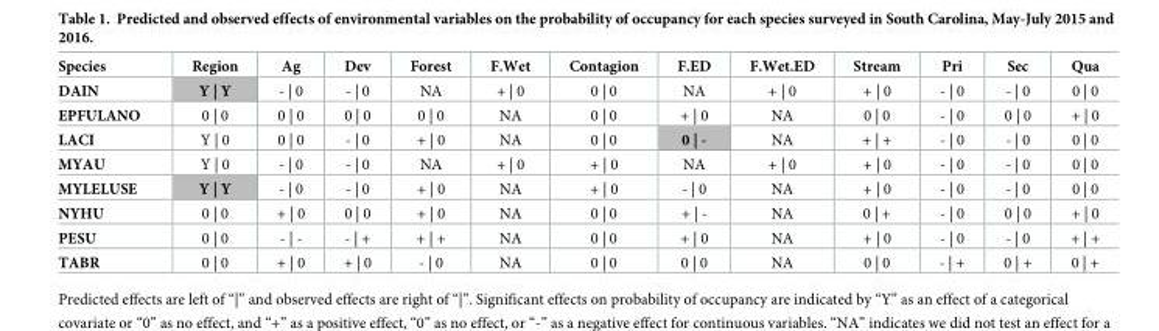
<table><thead><tr><td>Species</td><td>Region</td><td>Ag</td><td>Dev</td><td>Forest</td><td>F.Wet</td><td>Contagion</td><td>F.ED</td><td>F.Wet.ED</td><td>Stream</td><td>Pri</td><td>Sec</td><td>Qua</td></tr></thead><tbody><tr><td>DAIN</td><td>Y | Y</td><td>- | 0</td><td>- | 0</td><td>NA</td><td>+ | 0</td><td>0 | 0</td><td>NA</td><td>+ | 0</td><td>+ | 0</td><td>- | 0</td><td>- | 0</td><td>0 | 0</td></tr><tr><td>EPFULANO</td><td>0 | 0</td><td>0 | 0</td><td>0 | 0</td><td>0 | 0</td><td>NA</td><td>0 | 0</td><td>+ | 0</td><td>NA</td><td>0 | 0</td><td>- | 0</td><td>0 | 0</td><td>+ | 0</td></tr><tr><td>LACI</td><td>Y | 0</td><td>0 | 0</td><td>- | 0</td><td>+ | 0</td><td>NA</td><td>0 | 0</td><td>0 | -</td><td>NA</td><td>+ | +</td><td>- | 0</td><td>- | 0</td><td>0 | 0</td></tr><tr><td>MYAU</td><td>Y | 0</td><td>- | 0</td><td>- | 0</td><td>NA</td><td>+ | 0</td><td>+ | 0</td><td>NA</td><td>+ | 0</td><td>+ | 0</td><td>- | 0</td><td>- | 0</td><td>0 | 0</td></tr><tr><td>MYLELUSE</td><td>Y | Y</td><td>- | 0</td><td>- | 0</td><td>+ | 0</td><td>NA</td><td>+ | 0</td><td>- | 0</td><td>NA</td><td>+ | 0</td><td>- | 0</td><td>- | 0</td><td>0 | 0</td></tr><tr><td>NYHU</td><td>0 | 0</td><td>+ | 0</td><td>0 | 0</td><td>+ | 0</td><td>NA</td><td>0 | 0</td><td>+ | -</td><td>NA</td><td>0 | +</td><td>- | 0</td><td>0 | 0</td><td>+ | 0</td></tr><tr><td>PESU</td><td>0 | 0</td><td>- | -</td><td>- | +</td><td>+ | +</td><td>NA</td><td>0 | 0</td><td>+ | 0</td><td>NA</td><td>+ | 0</td><td>- | 0</td><td>- | 0</td><td>+ | +</td></tr><tr><td>TABR</td><td>0 | 0</td><td>+ | 0</td><td>+ | 0</td><td>- | 0</td><td>NA</td><td>0 | 0</td><td>0 | 0</td><td>NA</td><td>0 | 0</td><td>- | +</td><td>0 | +</td><td>0 | +</td></tr></tbody></table>